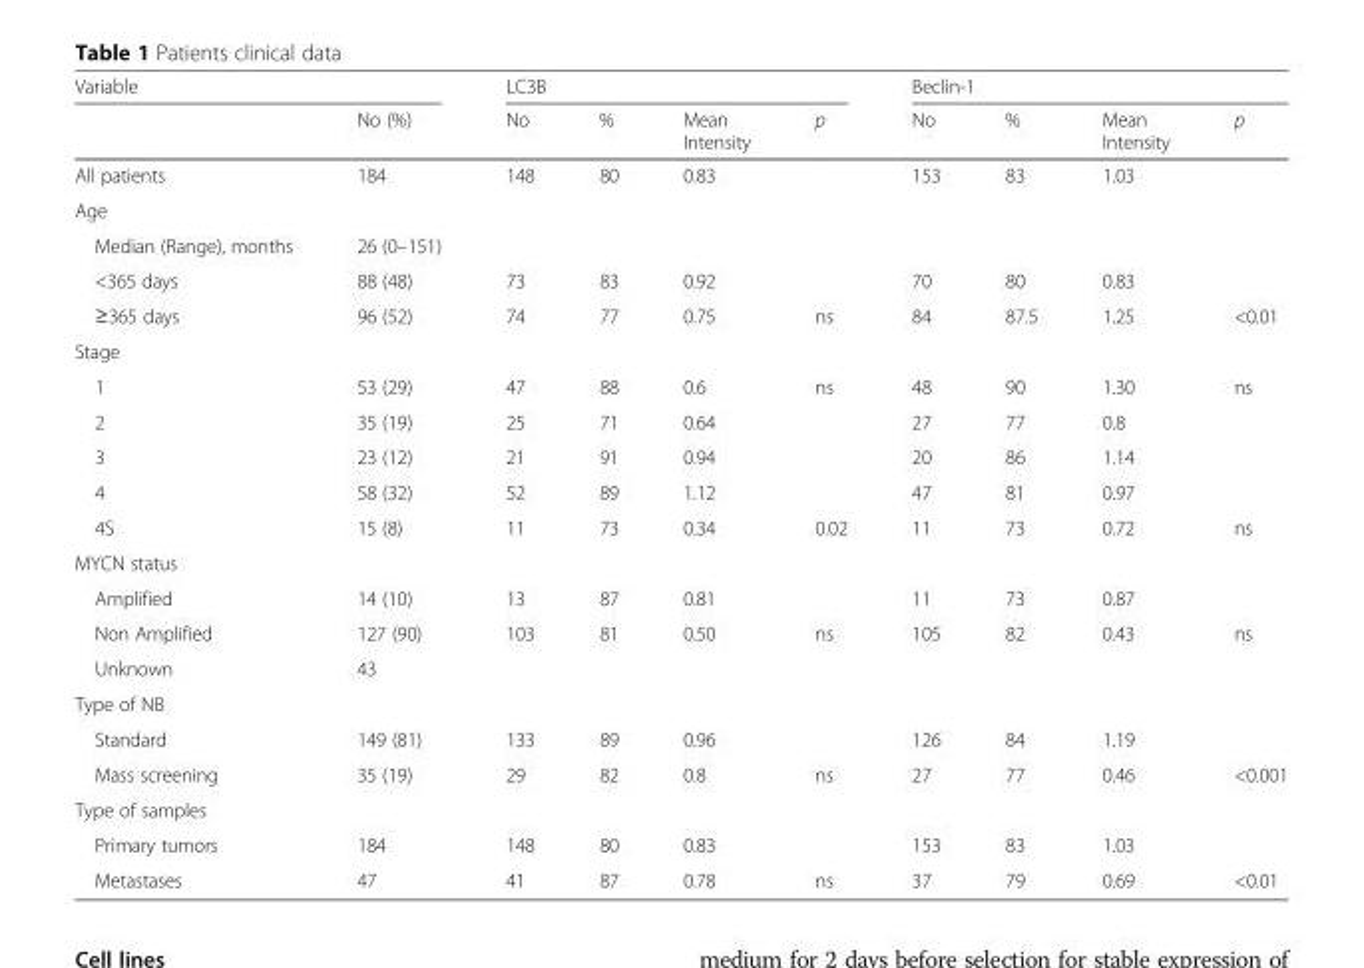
<table><thead><tr><td colspan="2">Variable</td><td colspan="4">LC3B</td><td colspan="4">Beclin-1</td></tr><tr><td></td><td>No (%)</td><td>No</td><td>%</td><td>Mean Intensity</td><td>p</td><td>No</td><td>%</td><td>Mean Intensity</td><td>p</td></tr></thead><tbody><tr><td>All patients</td><td>184</td><td>148</td><td>80</td><td>0.83</td><td></td><td>153</td><td>83</td><td>1.03</td><td></td></tr><tr><td colspan="10">Age</td></tr><tr><td>Median (Range), months</td><td>26 (0–151)</td><td></td><td></td><td></td><td></td><td></td><td></td><td></td><td></td></tr><tr><td>&lt;365 days</td><td>88 (48)</td><td>73</td><td>83</td><td>0.92</td><td></td><td>70</td><td>80</td><td>0.83</td><td></td></tr><tr><td>≥365 days</td><td>96 (52)</td><td>74</td><td>77</td><td>0.75</td><td>ns</td><td>84</td><td>87.5</td><td>1.25</td><td>&lt;0.01</td></tr><tr><td colspan="10">Stage</td></tr><tr><td>1</td><td>53 (29)</td><td>47</td><td>88</td><td>0.6</td><td>ns</td><td>48</td><td>90</td><td>1.30</td><td>ns</td></tr><tr><td>2</td><td>35 (19)</td><td>25</td><td>71</td><td>0.64</td><td></td><td>27</td><td>77</td><td>0.8</td><td></td></tr><tr><td>3</td><td>23 (12)</td><td>21</td><td>91</td><td>0.94</td><td></td><td>20</td><td>86</td><td>1.14</td><td></td></tr><tr><td>4</td><td>58 (32)</td><td>52</td><td>89</td><td>1.12</td><td></td><td>47</td><td>81</td><td>0.97</td><td></td></tr><tr><td>4S</td><td>15 (8)</td><td>11</td><td>73</td><td>0.34</td><td>0.02</td><td>11</td><td>73</td><td>0.72</td><td>ns</td></tr><tr><td colspan="10">MYCN status</td></tr><tr><td>Amplified</td><td>14 (10)</td><td>13</td><td>87</td><td>0.81</td><td></td><td>11</td><td>73</td><td>0.87</td><td></td></tr><tr><td>Non Amplified</td><td>127 (90)</td><td>103</td><td>81</td><td>0.50</td><td>ns</td><td>105</td><td>82</td><td>0.43</td><td>ns</td></tr><tr><td>Unknown</td><td>43</td><td></td><td></td><td></td><td></td><td></td><td></td><td></td><td></td></tr><tr><td colspan="10">Type of NB</td></tr><tr><td>Standard</td><td>149 (81)</td><td>133</td><td>89</td><td>0.96</td><td></td><td>126</td><td>84</td><td>1.19</td><td></td></tr><tr><td>Mass screening</td><td>35 (19)</td><td>29</td><td>82</td><td>0.8</td><td>ns</td><td>27</td><td>77</td><td>0.46</td><td>&lt;0.001</td></tr><tr><td colspan="10">Type of samples</td></tr><tr><td>Primary tumors</td><td>184</td><td>148</td><td>80</td><td>0.83</td><td></td><td>153</td><td>83</td><td>1.03</td><td></td></tr><tr><td>Metastases</td><td>47</td><td>41</td><td>87</td><td>0.78</td><td>ns</td><td>37</td><td>79</td><td>0.69</td><td>&lt;0.01</td></tr></tbody></table>